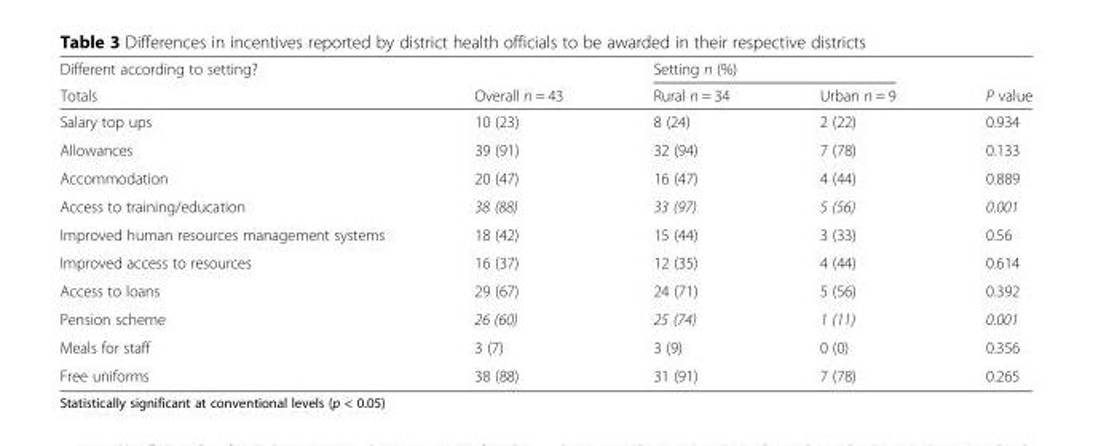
<table><thead><tr><td rowspan="2">Different according to setting? Totals</td><td rowspan="2">Overall n = 43</td><td colspan="2">Setting n (%)</td><td rowspan="2">P value</td></tr><tr><td>Rural n = 34</td><td>Urban n = 9</td></tr></thead><tbody><tr><td>Salary top ups</td><td>10 (23)</td><td>8 (24)</td><td>2 (22)</td><td>0.934</td></tr><tr><td>Allowances</td><td>39 (91)</td><td>32 (94)</td><td>7 (78)</td><td>0.133</td></tr><tr><td>Accommodation</td><td>20 (47)</td><td>16 (47)</td><td>4 (44)</td><td>0.889</td></tr><tr><td>Access to training/education</td><td>38 (88)</td><td>33 (97)</td><td>5 (56)</td><td>0.001</td></tr><tr><td>Improved human resources management systems</td><td>18 (42)</td><td>15 (44)</td><td>3 (33)</td><td>0.56</td></tr><tr><td>Improved access to resources</td><td>16 (37)</td><td>12 (35)</td><td>4 (44)</td><td>0.614</td></tr><tr><td>Access to loans</td><td>29 (67)</td><td>24 (71)</td><td>5 (56)</td><td>0.392</td></tr><tr><td>Pension scheme</td><td>26 (60)</td><td>25 (74)</td><td>1 (11)</td><td>0.001</td></tr><tr><td>Meals for staff</td><td>3 (7)</td><td>3 (9)</td><td>0 (0)</td><td>0.356</td></tr><tr><td>Free uniforms</td><td>38 (88)</td><td>31 (91)</td><td>7 (78)</td><td>0.265</td></tr></tbody></table>